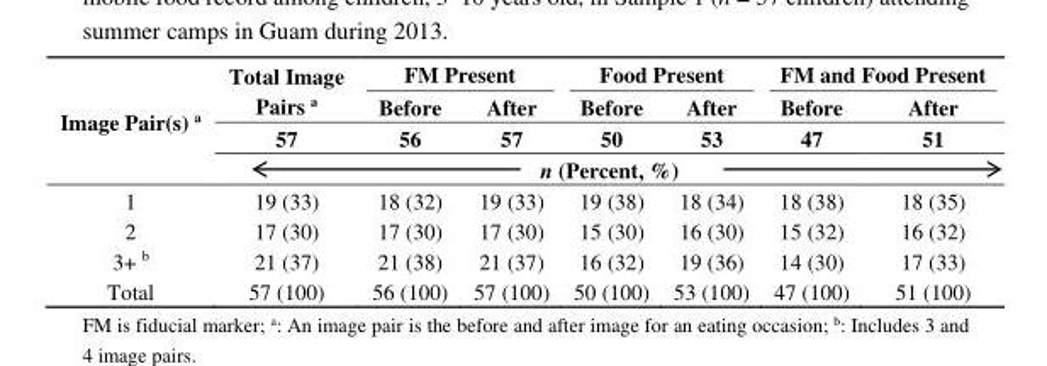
<table><thead><tr><td rowspan="4">Image Pair(s) <sup>a</sup></td><td rowspan="3">Total Image Pairs <sup>a</sup> 57</td><td colspan="2">FM Present</td><td colspan="2">Food Present</td><td colspan="2">FM and Food Present</td></tr><tr><td rowspan="2">Before 56</td><td rowspan="2">After 57</td><td rowspan="2">Before 50</td><td rowspan="2">After 53</td><td rowspan="2">Before 47</td><td rowspan="2">After 51</td></tr><tr></tr><tr><td colspan="7">n (Percent, %)</td></tr></thead><tbody><tr><td>1</td><td>19 (33)</td><td>18 (32)</td><td>19 (33)</td><td>19 (38)</td><td>18 (34)</td><td>18 (38)</td><td>18 (35)</td></tr><tr><td>2</td><td>17 (30)</td><td>17 (30)</td><td>17 (30)</td><td>15 (30)</td><td>16 (30)</td><td>15 (32)</td><td>16 (32)</td></tr><tr><td>3+ <sup>b</sup></td><td>21 (37)</td><td>21 (38)</td><td>21 (37)</td><td>16 (32)</td><td>19 (36)</td><td>14 (30)</td><td>17 (33)</td></tr><tr><td>Total</td><td>57 (100)</td><td>56 (100)</td><td>57 (100)</td><td>50 (100)</td><td>53 (100)</td><td>47 (100)</td><td>51 (100)</td></tr></tbody></table>